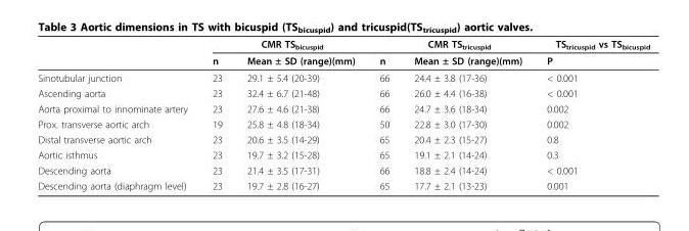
<table><thead><tr><td rowspan="2"></td><td colspan="2">CMR TS<sub>bicuspid</sub></td><td colspan="2">CMR TS<sub>tricuspid</sub></td><td rowspan="2">TS<sub>tricuspid</sub> vs TS<sub>bicuspid</sub> P</td></tr><tr><td>n</td><td>Mean ± SD (range)(mm)</td><td>n</td><td>Mean ± SD (range)(mm)</td></tr></thead><tbody><tr><td>Sinotubular junction</td><td>23</td><td>29.1 ± 5.4 (20-39)</td><td>66</td><td>24.4 ± 3.8 (17-36)</td><td>&lt; 0.001</td></tr><tr><td>Ascending aorta</td><td>23</td><td>32.4 ± 6.7 (21-48)</td><td>66</td><td>26.0 ± 4.4 (16-38)</td><td>&lt; 0.001</td></tr><tr><td>Aorta proximal to innominate artery</td><td>23</td><td>27.6 ± 4.6 (21-38)</td><td>66</td><td>24.7 ± 3.6 (18-34)</td><td>0.002</td></tr><tr><td>Prox. transverse aortic arch</td><td>19</td><td>25.8 ± 4.8 (18-34)</td><td>50</td><td>22.8 ± 3.0 (17-30)</td><td>0.002</td></tr><tr><td>Distal transverse aortic arch</td><td>23</td><td>20.6 ± 3.5 (14-29)</td><td>65</td><td>20.4 ± 2.3 (15-27)</td><td>0.8</td></tr><tr><td>Aortic isthmus</td><td>23</td><td>19.7 ± 3.2 (15-28)</td><td>65</td><td>19.1 ± 2.1 (14-24)</td><td>0.3</td></tr><tr><td>Descending aorta</td><td>23</td><td>21.4 ± 3.5 (17-31)</td><td>66</td><td>18.8 ± 2.4 (14-24)</td><td>&lt; 0.001</td></tr><tr><td>Descending aorta (diaphragm level)</td><td>23</td><td>19.7 ± 2.8 (16-27)</td><td>65</td><td>17.7 ± 2.1 (13-23)</td><td>0.001</td></tr></tbody></table>